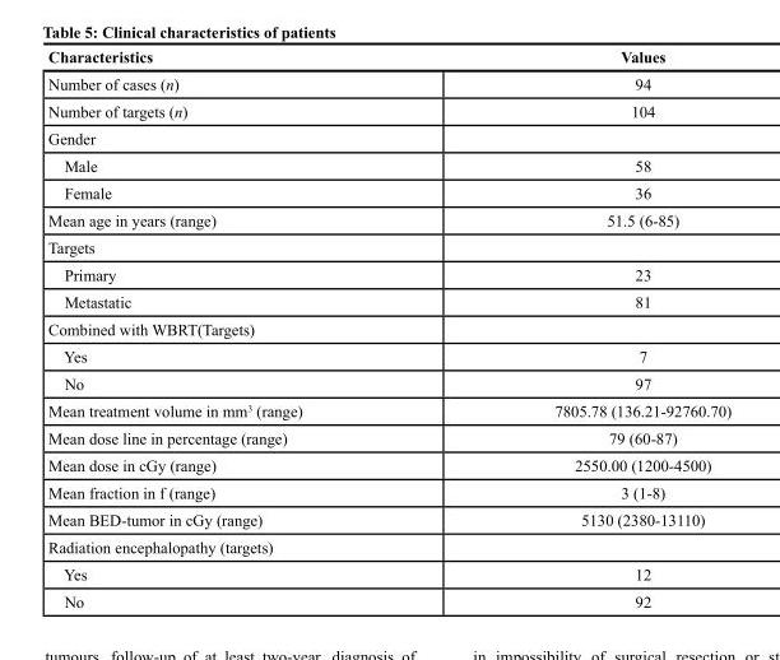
<table><thead><tr><td>Characteristics</td><td>Values</td></tr></thead><tbody><tr><td>Number of cases (n)</td><td>94</td></tr><tr><td>Number of targets (n)</td><td>104</td></tr><tr><td colspan="2">Gender</td></tr><tr><td>Male</td><td>58</td></tr><tr><td>Female</td><td>36</td></tr><tr><td>Mean age in years (range)</td><td>51.5 (6-85)</td></tr><tr><td colspan="2">Targets</td></tr><tr><td>Primary</td><td>23</td></tr><tr><td>Metastatic</td><td>81</td></tr><tr><td colspan="2">Combined with WBRT(Targets)</td></tr><tr><td>Yes</td><td>7</td></tr><tr><td>No</td><td>97</td></tr><tr><td>Mean treatment volume in mm<sup>3</sup> (range)</td><td>7805.78 (136.21-92760.70)</td></tr><tr><td>Mean dose line in percentage (range)</td><td>79 (60-87)</td></tr><tr><td>Mean dose in cGy (range)</td><td>2550.00 (1200-4500)</td></tr><tr><td>Mean fraction in f (range)</td><td>3 (1-8)</td></tr><tr><td>Mean BED-tumor in cGy (range)</td><td>5130 (2380-13110)</td></tr><tr><td colspan="2">Radiation encephalopathy (targets)</td></tr><tr><td>Yes</td><td>12</td></tr><tr><td>No</td><td>92</td></tr></tbody></table>